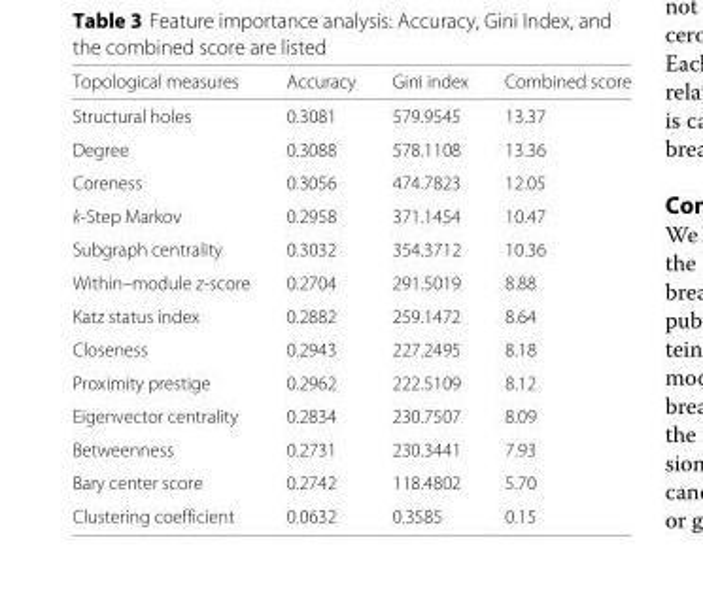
<table><thead><tr><td>Topological measures</td><td>Accuracy</td><td>Gini index</td><td>Combined score</td></tr></thead><tbody><tr><td>Structural holes</td><td>0.3081</td><td>579.9545</td><td>13.37</td></tr><tr><td>Degree</td><td>0.3088</td><td>578.1108</td><td>13.36</td></tr><tr><td>Coreness</td><td>0.3056</td><td>474.7823</td><td>12.05</td></tr><tr><td>k-Step Markov</td><td>0.2958</td><td>371.1454</td><td>10.47</td></tr><tr><td>Subgraph centrality</td><td>0.3032</td><td>354.3712</td><td>10.36</td></tr><tr><td>Within–module z-score</td><td>0.2704</td><td>291.5019</td><td>8.88</td></tr><tr><td>Katz status index</td><td>0.2882</td><td>259.1472</td><td>8.64</td></tr><tr><td>Closeness</td><td>0.2943</td><td>227.2495</td><td>8.18</td></tr><tr><td>Proximity prestige</td><td>0.2962</td><td>222.5109</td><td>8.12</td></tr><tr><td>Eigenvector centrality</td><td>0.2834</td><td>230.7507</td><td>8.09</td></tr><tr><td>Betweenness</td><td>0.2731</td><td>230.3441</td><td>7.93</td></tr><tr><td>Bary center score</td><td>0.2742</td><td>118.4802</td><td>5.70</td></tr><tr><td>Clustering coefficient</td><td>0.0632</td><td>0.3585</td><td>0.15</td></tr></tbody></table>